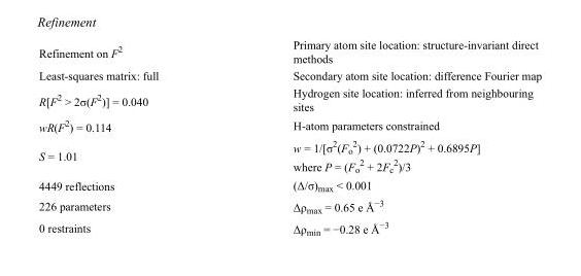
<table><tbody><tr><td>Refinement on F<sup>2</sup></td><td>Primary atom site location: structure-invariant direct methods</td></tr><tr><td>Least-squares matrix: full</td><td>Secondary atom site location: difference Fourier map</td></tr><tr><td>R[F<sup>2</sup> &gt; 2σ(F<sup>2</sup>)] = 0.040</td><td>Hydrogen site location: inferred from neighbouring sites</td></tr><tr><td>wR(F<sup>2</sup>) = 0.114</td><td>H-atom parameters constrained</td></tr><tr><td>S = 1.01</td><td>w = 1/[σ<sup>2</sup>(F<sub>o</sub> <sup>2</sup>) + (0.0722P)<sup>2</sup> + 0.6895P] where P = (F<sub>o</sub> <sup>2</sup> + 2F<sub>c</sub> <sup>2</sup>)/3</td></tr><tr><td>4449 reflections</td><td>(Δ/σ)<sub>max</sub> &lt; 0.001</td></tr><tr><td>226 parameters</td><td>Δρ<sub>max</sub> = 0.65 e Å<sup>−3</sup></td></tr><tr><td>0 restraints</td><td>Δρ<sub>min</sub> = −0.28 e Å<sup>−3</sup></td></tr></tbody></table>